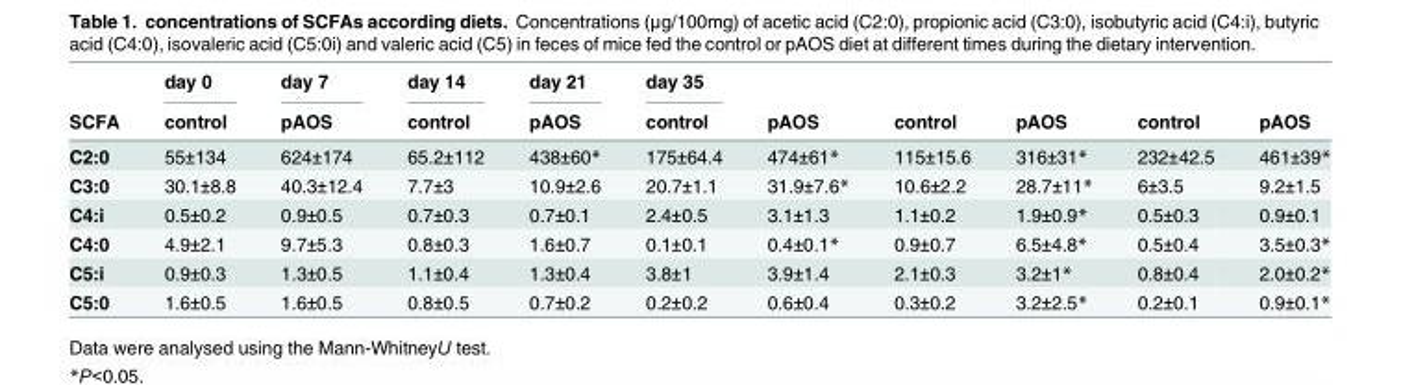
<table><thead><tr><td rowspan="2">SCFA</td><td rowspan="2">day 0 control</td><td rowspan="2">day 7 pAOS</td><td rowspan="2">day 14 control</td><td rowspan="2">day 21 pAOS</td><td rowspan="2">day 35 control</td><td rowspan="2">pAOS</td><td rowspan="2">control</td><td rowspan="2">pAOS</td><td rowspan="2">control</td><td rowspan="2">pAOS</td></tr><tr></tr></thead><tbody><tr><td>C2:0</td><td>55±134</td><td>624±174</td><td>65.2±112</td><td>438±60*</td><td>175±64.4</td><td>474±61*</td><td>115±15.6</td><td>316±31*</td><td>232±42.5</td><td>461±39*</td></tr><tr><td>C3:0</td><td>30.1±8.8</td><td>40.3±12.4</td><td>7.7±3</td><td>10.9±2.6</td><td>20.7±1.1</td><td>31.9±7.6*</td><td>10.6±2.2</td><td>28.7±11*</td><td>6±3.5</td><td>9.2±1.5</td></tr><tr><td>C4:i</td><td>0.5±0.2</td><td>0.9±0.5</td><td>0.7±0.3</td><td>0.7±0.1</td><td>2.4±0.5</td><td>3.1±1.3</td><td>1.1±0.2</td><td>1.9±0.9*</td><td>0.5±0.3</td><td>0.9±0.1</td></tr><tr><td>C4:0</td><td>4.9±2.1</td><td>9.7±5.3</td><td>0.8±0.3</td><td>1.6±0.7</td><td>0.1±0.1</td><td>0.4±0.1*</td><td>0.9±0.7</td><td>6.5±4.8*</td><td>0.5±0.4</td><td>3.5±0.3*</td></tr><tr><td>C5:i</td><td>0.9±0.3</td><td>1.3±0.5</td><td>1.1±0.4</td><td>1.3±0.4</td><td>3.8±1</td><td>3.9±1.4</td><td>2.1±0.3</td><td>3.2±1*</td><td>0.8±0.4</td><td>2.0±0.2*</td></tr><tr><td>C5:0</td><td>1.6±0.5</td><td>1.6±0.5</td><td>0.8±0.5</td><td>0.7±0.2</td><td>0.2±0.2</td><td>0.6±0.4</td><td>0.3±0.2</td><td>3.2±2.5*</td><td>0.2±0.1</td><td>0.9±0.1*</td></tr></tbody></table>